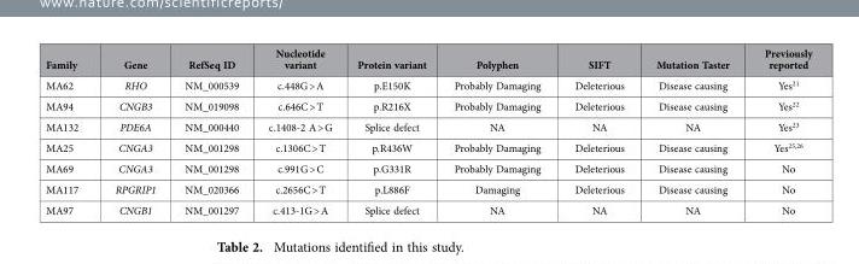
<table><thead><tr><td>Family</td><td>Gene</td><td>RefSeq ID</td><td>Nucleotide variant</td><td>Protein variant</td><td>Polyphen</td><td>SIFT</td><td>Mutation Taster</td><td>Previously reported</td></tr></thead><tbody><tr><td>MA62</td><td>RHO</td><td>NM_000539</td><td>c.448G &gt; A</td><td>p.E150K</td><td>Probably Damaging</td><td>Deleterious</td><td>Disease causing</td><td>Yes<sup>21</sup></td></tr><tr><td>MA94</td><td>CNGB3</td><td>NM_019098</td><td>c.646C &gt; T</td><td>p.R216X</td><td>Probably Damaging</td><td>Deleterious</td><td>Disease causing</td><td>Yes<sup>22</sup></td></tr><tr><td>MA132</td><td>PDE6A</td><td>NM_000440</td><td>c.1408-2 A &gt; G</td><td>Splice defect</td><td>NA</td><td>NA</td><td>NA</td><td>Yes<sup>23</sup></td></tr><tr><td>MA25</td><td>CNGA3</td><td>NM_001298</td><td>c.1306C &gt; T</td><td>p.R436W</td><td>Probably Damaging</td><td>Deleterious</td><td>Disease causing</td><td>Yes<sup>25</sup>,<sup>26</sup></td></tr><tr><td>MA69</td><td>CNGA3</td><td>NM_001298</td><td>c.991G &gt; C</td><td>p.G331R</td><td>Probably Damaging</td><td>Deleterious</td><td>Disease causing</td><td>No</td></tr><tr><td>MA117</td><td>RPGRIP1</td><td>NM_020366</td><td>c.2656C &gt; T</td><td>p.L886F</td><td>Damaging</td><td>Deleterious</td><td>Disease causing</td><td>No</td></tr><tr><td>MA97</td><td>CNGB1</td><td>NM_001297</td><td>c.413-1G &gt; A</td><td>Splice defect</td><td>NA</td><td>NA</td><td>NA</td><td>No</td></tr></tbody></table>